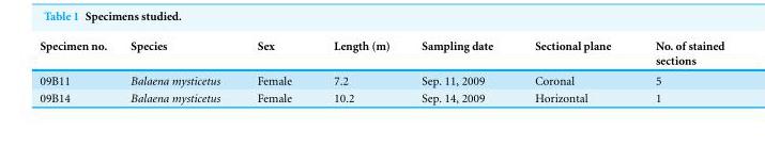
<table><thead><tr><td>Specimen no.</td><td>Species</td><td>Sex</td><td>Length (m)</td><td>Sampling date</td><td>Sectional plane</td><td>No. of stained sections</td></tr></thead><tbody><tr><td>09B11</td><td>Balaena mysticetus</td><td>Female</td><td>7.2</td><td>Sep. 11, 2009</td><td>Coronal</td><td>5</td></tr><tr><td>09B14</td><td>Balaena mysticetus</td><td>Female</td><td>10.2</td><td>Sep. 14, 2009</td><td>Horizontal</td><td>1</td></tr></tbody></table>